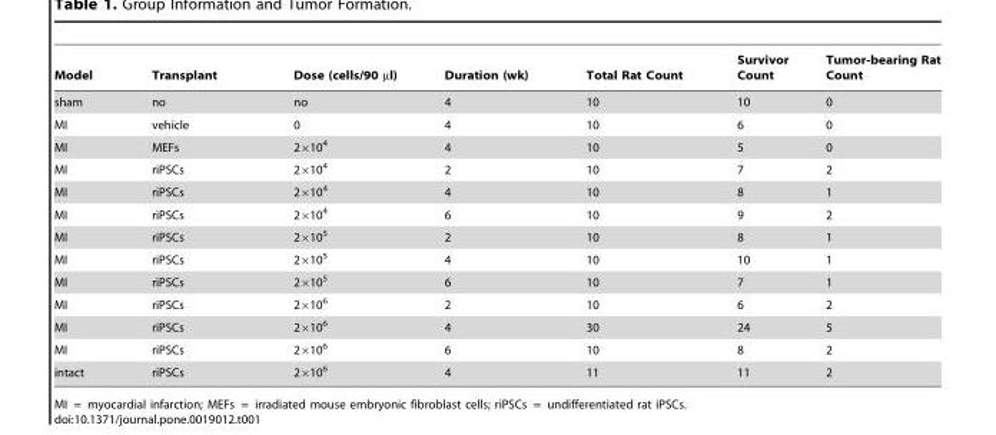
<table><thead><tr><td>Model</td><td>Transplant</td><td>Dose (cells/90 µl)</td><td>Duration (wk)</td><td>Total Rat Count</td><td>Survivor Count</td><td>Tumor-bearing Rat Count</td></tr></thead><tbody><tr><td>sham</td><td>no</td><td>no</td><td>4</td><td>10</td><td>10</td><td>0</td></tr><tr><td>MI</td><td>vehicle</td><td>0</td><td>4</td><td>10</td><td>6</td><td>0</td></tr><tr><td>MI</td><td>MEFs</td><td>2×10<sup>4</sup></td><td>4</td><td>10</td><td>5</td><td>0</td></tr><tr><td>MI</td><td>riPSCs</td><td>2×10<sup>4</sup></td><td>2</td><td>10</td><td>7</td><td>2</td></tr><tr><td>MI</td><td>riPSCs</td><td>2×10<sup>4</sup></td><td>4</td><td>10</td><td>8</td><td>1</td></tr><tr><td>MI</td><td>riPSCs</td><td>2×10<sup>4</sup></td><td>6</td><td>10</td><td>9</td><td>2</td></tr><tr><td>MI</td><td>riPSCs</td><td>2×10<sup>5</sup></td><td>2</td><td>10</td><td>8</td><td>1</td></tr><tr><td>MI</td><td>riPSCs</td><td>2×10<sup>5</sup></td><td>4</td><td>10</td><td>10</td><td>1</td></tr><tr><td>MI</td><td>riPSCs</td><td>2×10<sup>5</sup></td><td>6</td><td>10</td><td>7</td><td>1</td></tr><tr><td>MI</td><td>riPSCs</td><td>2×10<sup>6</sup></td><td>2</td><td>10</td><td>6</td><td>2</td></tr><tr><td>MI</td><td>riPSCs</td><td>2×10<sup>6</sup></td><td>4</td><td>30</td><td>24</td><td>5</td></tr><tr><td>MI</td><td>riPSCs</td><td>2×10<sup>6</sup></td><td>6</td><td>10</td><td>8</td><td>2</td></tr><tr><td>intact</td><td>riPSCs</td><td>2×10<sup>6</sup></td><td>4</td><td>11</td><td>11</td><td>2</td></tr></tbody></table>